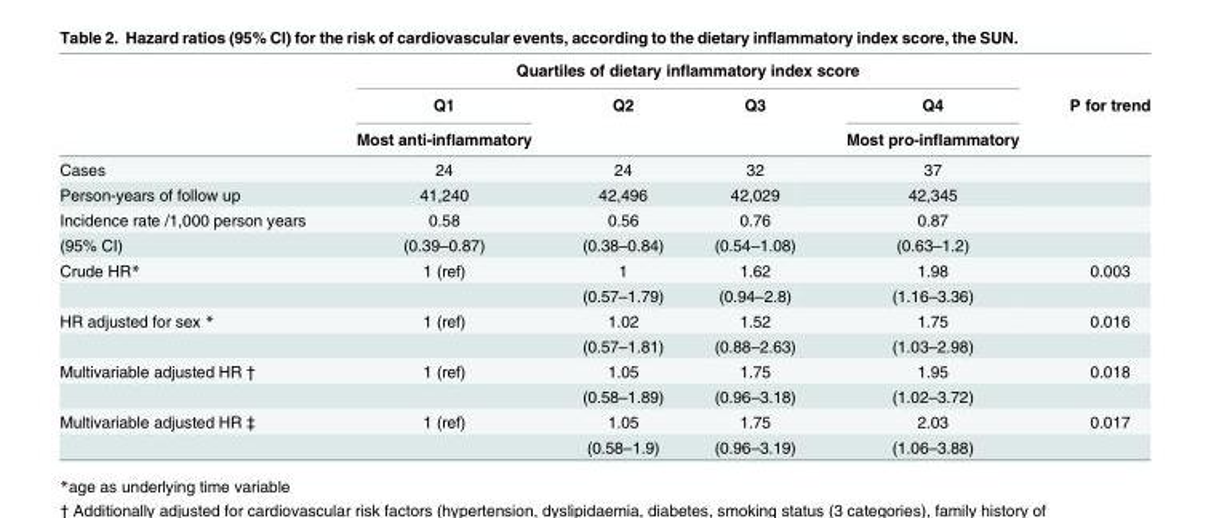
<table><thead><tr><td rowspan="3"></td><td colspan="4">Quartiles of dietary inflammatory index score</td><td rowspan="3">P for trend</td></tr><tr><td rowspan="2">Q1 Most anti-inflammatory</td><td rowspan="2">Q2</td><td rowspan="2">Q3</td><td rowspan="2">Q4 Most pro-inflammatory</td></tr><tr></tr></thead><tbody><tr><td>Cases</td><td>24</td><td>24</td><td>32</td><td>37</td><td></td></tr><tr><td>Person-years of follow up</td><td>41,240</td><td>42,496</td><td>42,029</td><td>42,345</td><td></td></tr><tr><td>Incidence rate /1,000 person years</td><td>0.58</td><td>0.56</td><td>0.76</td><td>0.87</td><td></td></tr><tr><td>(95% CI)</td><td>(0.39–0.87)</td><td>(0.38–0.84)</td><td>(0.54–1.08)</td><td>(0.63–1.2)</td><td></td></tr><tr><td rowspan="2">Crude HR*</td><td>1 (ref)</td><td>1</td><td>1.62</td><td>1.98</td><td>0.003</td></tr><tr><td></td><td>(0.57–1.79)</td><td>(0.94–2.8)</td><td>(1.16–3.36)</td><td></td></tr><tr><td rowspan="2">HR adjusted for sex *</td><td>1 (ref)</td><td>1.02</td><td>1.52</td><td>1.75</td><td>0.016</td></tr><tr><td></td><td>(0.57–1.81)</td><td>(0.88–2.63)</td><td>(1.03–2.98)</td><td></td></tr><tr><td rowspan="2">Multivariable adjusted HR †</td><td>1 (ref)</td><td>1.05</td><td>1.75</td><td>1.95</td><td>0.018</td></tr><tr><td></td><td>(0.58–1.89)</td><td>(0.96–3.18)</td><td>(1.02–3.72)</td><td></td></tr><tr><td rowspan="2">Multivariable adjusted HR ‡</td><td>1 (ref)</td><td>1.05</td><td>1.75</td><td>2.03</td><td>0.017</td></tr><tr><td></td><td>(0.58–1.9)</td><td>(0.96–3.19)</td><td>(1.06–3.88)</td><td></td></tr></tbody></table>